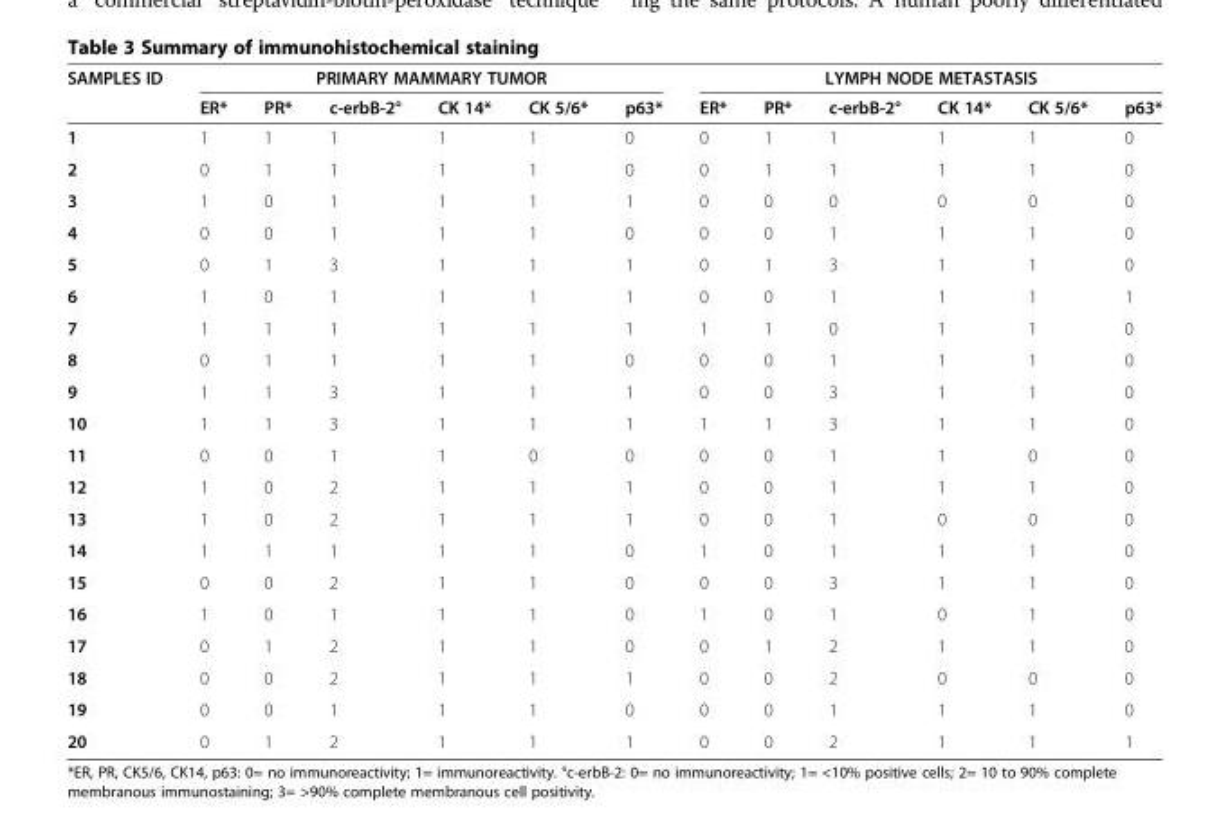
<table><thead><tr><td rowspan="2">SAMPLES ID</td><td colspan="6">PRIMARY MAMMARY TUMOR</td><td colspan="6">LYMPH NODE METASTASIS</td></tr><tr><td>ER*</td><td>PR*</td><td>c-erbB-2°</td><td>CK 14*</td><td>CK 5/6*</td><td>p63*</td><td>ER*</td><td>PR*</td><td>c-erbB-2°</td><td>CK 14*</td><td>CK 5/6*</td><td>p63*</td></tr></thead><tbody><tr><td>1</td><td>1</td><td>1</td><td>1</td><td>1</td><td>1</td><td>0</td><td>0</td><td>1</td><td>1</td><td>1</td><td>1</td><td>0</td></tr><tr><td>2</td><td>0</td><td>1</td><td>1</td><td>1</td><td>1</td><td>0</td><td>0</td><td>1</td><td>1</td><td>1</td><td>1</td><td>0</td></tr><tr><td>3</td><td>1</td><td>0</td><td>1</td><td>1</td><td>1</td><td>1</td><td>0</td><td>0</td><td>0</td><td>0</td><td>0</td><td>0</td></tr><tr><td>4</td><td>0</td><td>0</td><td>1</td><td>1</td><td>1</td><td>0</td><td>0</td><td>0</td><td>1</td><td>1</td><td>1</td><td>0</td></tr><tr><td>5</td><td>0</td><td>1</td><td>3</td><td>1</td><td>1</td><td>1</td><td>0</td><td>1</td><td>3</td><td>1</td><td>1</td><td>0</td></tr><tr><td>6</td><td>1</td><td>0</td><td>1</td><td>1</td><td>1</td><td>1</td><td>0</td><td>0</td><td>1</td><td>1</td><td>1</td><td>1</td></tr><tr><td>7</td><td>1</td><td>1</td><td>1</td><td>1</td><td>1</td><td>1</td><td>1</td><td>1</td><td>0</td><td>1</td><td>1</td><td>0</td></tr><tr><td>8</td><td>0</td><td>1</td><td>1</td><td>1</td><td>1</td><td>0</td><td>0</td><td>0</td><td>1</td><td>1</td><td>1</td><td>0</td></tr><tr><td>9</td><td>1</td><td>1</td><td>3</td><td>1</td><td>1</td><td>1</td><td>0</td><td>0</td><td>3</td><td>1</td><td>1</td><td>0</td></tr><tr><td>10</td><td>1</td><td>1</td><td>3</td><td>1</td><td>1</td><td>1</td><td>1</td><td>1</td><td>3</td><td>1</td><td>1</td><td>0</td></tr><tr><td>11</td><td>0</td><td>0</td><td>1</td><td>1</td><td>0</td><td>0</td><td>0</td><td>0</td><td>1</td><td>1</td><td>0</td><td>0</td></tr><tr><td>12</td><td>1</td><td>0</td><td>2</td><td>1</td><td>1</td><td>1</td><td>0</td><td>0</td><td>1</td><td>1</td><td>1</td><td>0</td></tr><tr><td>13</td><td>1</td><td>0</td><td>2</td><td>1</td><td>1</td><td>1</td><td>0</td><td>0</td><td>1</td><td>0</td><td>0</td><td>0</td></tr><tr><td>14</td><td>1</td><td>1</td><td>1</td><td>1</td><td>1</td><td>0</td><td>1</td><td>0</td><td>1</td><td>1</td><td>1</td><td>0</td></tr><tr><td>15</td><td>0</td><td>0</td><td>2</td><td>1</td><td>1</td><td>0</td><td>0</td><td>0</td><td>3</td><td>1</td><td>1</td><td>0</td></tr><tr><td>16</td><td>1</td><td>0</td><td>1</td><td>1</td><td>1</td><td>0</td><td>1</td><td>0</td><td>1</td><td>0</td><td>1</td><td>0</td></tr><tr><td>17</td><td>0</td><td>1</td><td>2</td><td>1</td><td>1</td><td>0</td><td>0</td><td>1</td><td>2</td><td>1</td><td>1</td><td>0</td></tr><tr><td>18</td><td>0</td><td>0</td><td>2</td><td>1</td><td>1</td><td>1</td><td>0</td><td>0</td><td>2</td><td>0</td><td>0</td><td>0</td></tr><tr><td>19</td><td>0</td><td>0</td><td>1</td><td>1</td><td>1</td><td>0</td><td>0</td><td>0</td><td>1</td><td>1</td><td>1</td><td>0</td></tr><tr><td>20</td><td>0</td><td>1</td><td>2</td><td>1</td><td>1</td><td>1</td><td>0</td><td>0</td><td>2</td><td>1</td><td>1</td><td>1</td></tr></tbody></table>